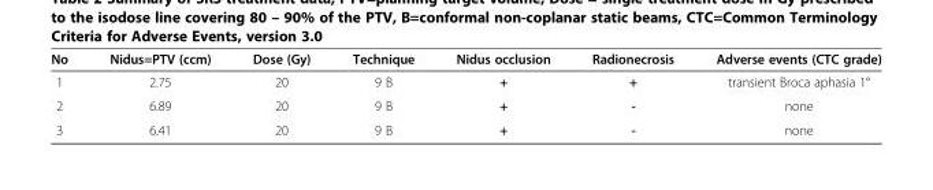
<table><thead><tr><td>No</td><td>Nidus=PTV (ccm)</td><td>Dose (Gy)</td><td>Technique</td><td>Nidus occlusion</td><td>Radionecrosis</td><td>Adverse events (CTC grade)</td></tr></thead><tbody><tr><td>1</td><td>2.75</td><td>20</td><td>9 B</td><td>+</td><td>+</td><td>transient Broca aphasia 1°</td></tr><tr><td>2</td><td>6.89</td><td>20</td><td>9 B</td><td>+</td><td>-</td><td>none</td></tr><tr><td>3</td><td>6.41</td><td>20</td><td>9 B</td><td>+</td><td>-</td><td>none</td></tr></tbody></table>